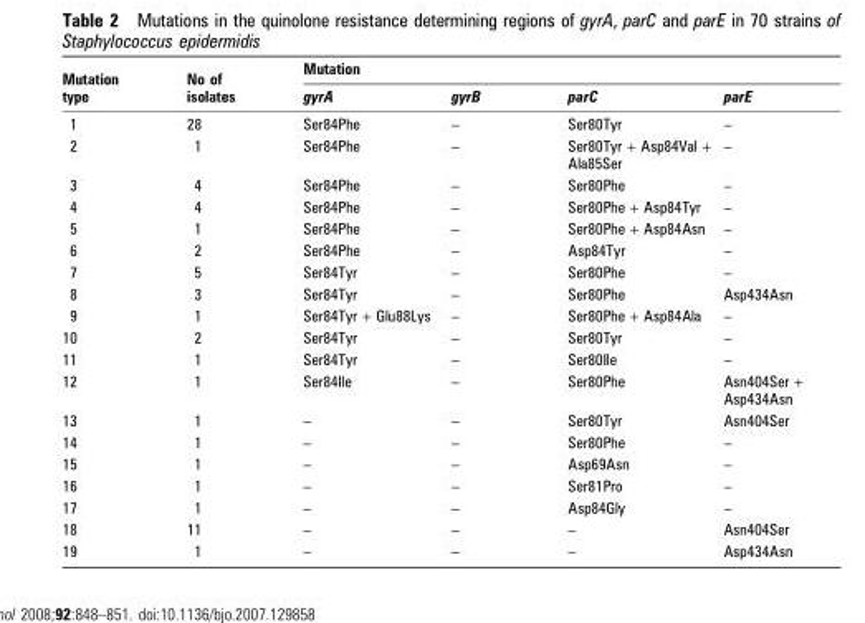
<table><thead><tr><td rowspan="2">Mutation type</td><td rowspan="2">No of isolates</td><td colspan="4">Mutation</td></tr><tr><td>gyrA</td><td>gyrB</td><td>parC</td><td>parE</td></tr></thead><tbody><tr><td>1</td><td>28</td><td>Ser84Phe</td><td>–</td><td>Ser80Tyr</td><td>–</td></tr><tr><td>2</td><td>1</td><td>Ser84Phe</td><td>–</td><td>Ser80Tyr + Asp84Val + Ala85Ser</td><td>–</td></tr><tr><td>3</td><td>4</td><td>Ser84Phe</td><td>–</td><td>Ser80Phe</td><td>–</td></tr><tr><td>4</td><td>4</td><td>Ser84Phe</td><td>–</td><td>Ser80Phe + Asp84Tyr</td><td>–</td></tr><tr><td>5</td><td>1</td><td>Ser84Phe</td><td>–</td><td>Ser80Phe + Asp84Asn</td><td>–</td></tr><tr><td>6</td><td>2</td><td>Ser84Phe</td><td>–</td><td>Asp84Tyr</td><td>–</td></tr><tr><td>7</td><td>5</td><td>Ser84Tyr</td><td>–</td><td>Ser80Phe</td><td>–</td></tr><tr><td>8</td><td>3</td><td>Ser84Tyr</td><td>–</td><td>Ser80Phe</td><td>Asp434Asn</td></tr><tr><td>9</td><td>1</td><td>Ser84Tyr + Glu88Lys</td><td>–</td><td>Ser80Phe + Asp84Ala</td><td>–</td></tr><tr><td>10</td><td>2</td><td>Ser84Tyr</td><td>–</td><td>Ser80Tyr</td><td>–</td></tr><tr><td>11</td><td>1</td><td>Ser84Tyr</td><td>–</td><td>Ser80Ile</td><td>–</td></tr><tr><td>12</td><td>1</td><td>Ser84Ile</td><td>–</td><td>Ser80Phe</td><td>Asn404Ser + Asp434Asn</td></tr><tr><td>13</td><td>1</td><td>–</td><td>–</td><td>Ser80Tyr</td><td>Asn404Ser</td></tr><tr><td>14</td><td>1</td><td>–</td><td>–</td><td>Ser80Phe</td><td>–</td></tr><tr><td>15</td><td>1</td><td>–</td><td>–</td><td>Asp69Asn</td><td>–</td></tr><tr><td>16</td><td>1</td><td>–</td><td>–</td><td>Ser81Pro</td><td>–</td></tr><tr><td>17</td><td>1</td><td>–</td><td>–</td><td>Asp84Gly</td><td>–</td></tr><tr><td>18</td><td>11</td><td>–</td><td>–</td><td>–</td><td>Asn404Ser</td></tr><tr><td>19</td><td>1</td><td>–</td><td>–</td><td>–</td><td>Asp434Asn</td></tr></tbody></table>